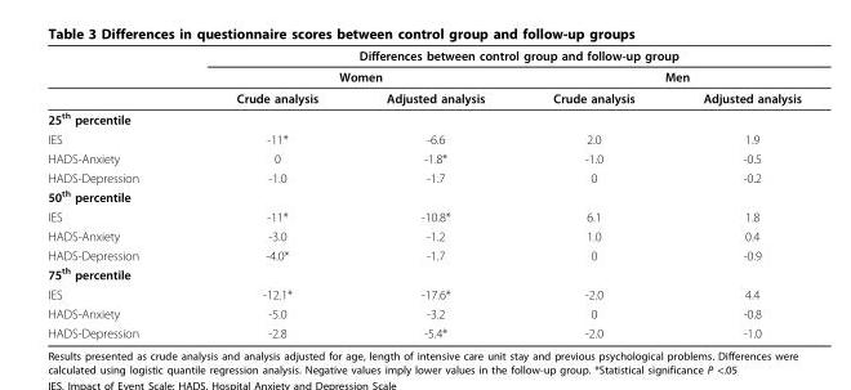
<table><thead><tr><td rowspan="3"></td><td colspan="4">Differences between control group and follow-up group</td></tr><tr><td colspan="2">Women</td><td colspan="2">Men</td></tr><tr><td>Crude analysis</td><td>Adjusted analysis</td><td>Crude analysis</td><td>Adjusted analysis</td></tr></thead><tbody><tr><td colspan="5">25<sup>th</sup> percentile</td></tr><tr><td>IES</td><td>-11*</td><td>-6.6</td><td>2.0</td><td>1.9</td></tr><tr><td>HADS-Anxiety</td><td>0</td><td>-1.8*</td><td>-1.0</td><td>-0.5</td></tr><tr><td>HADS-Depression</td><td>-1.0</td><td>-1.7</td><td>0</td><td>-0.2</td></tr><tr><td colspan="5">50<sup>th</sup> percentile</td></tr><tr><td>IES</td><td>-11*</td><td>-10.8*</td><td>6.1</td><td>1.8</td></tr><tr><td>HADS-Anxiety</td><td>-3.0</td><td>-1.2</td><td>1.0</td><td>0.4</td></tr><tr><td>HADS-Depression</td><td>-4.0*</td><td>-1.7</td><td>0</td><td>-0.9</td></tr><tr><td colspan="5">75<sup>th</sup> percentile</td></tr><tr><td>IES</td><td>-12.1*</td><td>-17.6*</td><td>-2.0</td><td>4.4</td></tr><tr><td>HADS-Anxiety</td><td>-5.0</td><td>-3.2</td><td>0</td><td>-0.8</td></tr><tr><td>HADS-Depression</td><td>-2.8</td><td>-5.4*</td><td>-2.0</td><td>-1.0</td></tr></tbody></table>